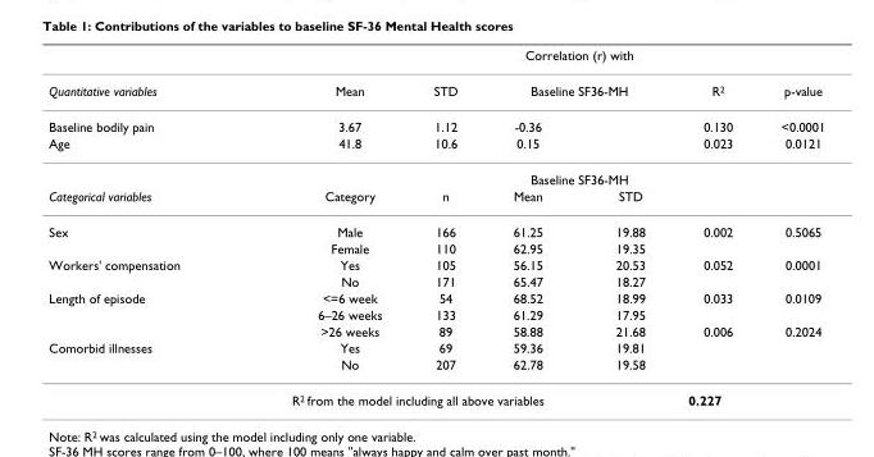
<table><thead><tr><td rowspan="3">Quantitative variables Baseline bodily pain</td><td rowspan="3">Mean 3.67</td><td rowspan="3">STD 1.12</td><td rowspan="2" colspan="2">Correlation (r) with Baseline SF36-MH</td><td rowspan="3">R2 0.130</td><td rowspan="3">p-value &lt;0.0001</td></tr><tr></tr><tr><td>-0.36</td><td></td></tr></thead><tbody><tr><td rowspan="2">Age</td><td>41.8</td><td>10.6</td><td>0.15</td><td></td><td>0.023</td><td>0.0121</td></tr><tr><td></td><td></td><td colspan="2">Baseline SF36-MH</td><td></td><td></td></tr><tr><td>Categorical variables</td><td>Category</td><td>n</td><td>Mean</td><td>STD</td><td></td><td></td></tr><tr><td rowspan="2">Sex</td><td>Male</td><td>166</td><td>61.25</td><td>19.88</td><td>0.002</td><td>0.5065</td></tr><tr><td>Female</td><td>110</td><td>62.95</td><td>19.35</td><td></td><td></td></tr><tr><td rowspan="2">Workers&#x27; compensation</td><td>Yes</td><td>105</td><td>56.15</td><td>20.53</td><td>0.052</td><td>0.0001</td></tr><tr><td>No</td><td>171</td><td>65.47</td><td>18.27</td><td></td><td></td></tr><tr><td rowspan="3">Length of episode</td><td>&lt;=6 week</td><td>54</td><td>68.52</td><td>18.99</td><td>0.033</td><td>0.0109</td></tr><tr><td>6–26 weeks</td><td>133</td><td>61.29</td><td>17.95</td><td></td><td></td></tr><tr><td>&gt;26 weeks</td><td>89</td><td>58.88</td><td>21.68</td><td>0.006</td><td>0.2024</td></tr><tr><td rowspan="3">Comorbid illnesses</td><td>Yes</td><td>69</td><td>59.36</td><td>19.81</td><td></td><td></td></tr><tr><td>No</td><td>207</td><td>62.78</td><td>19.58</td><td></td><td></td></tr><tr><td colspan="4">R<sup>2</sup> from the model including all above variables</td><td>0.227</td><td></td></tr></tbody></table>